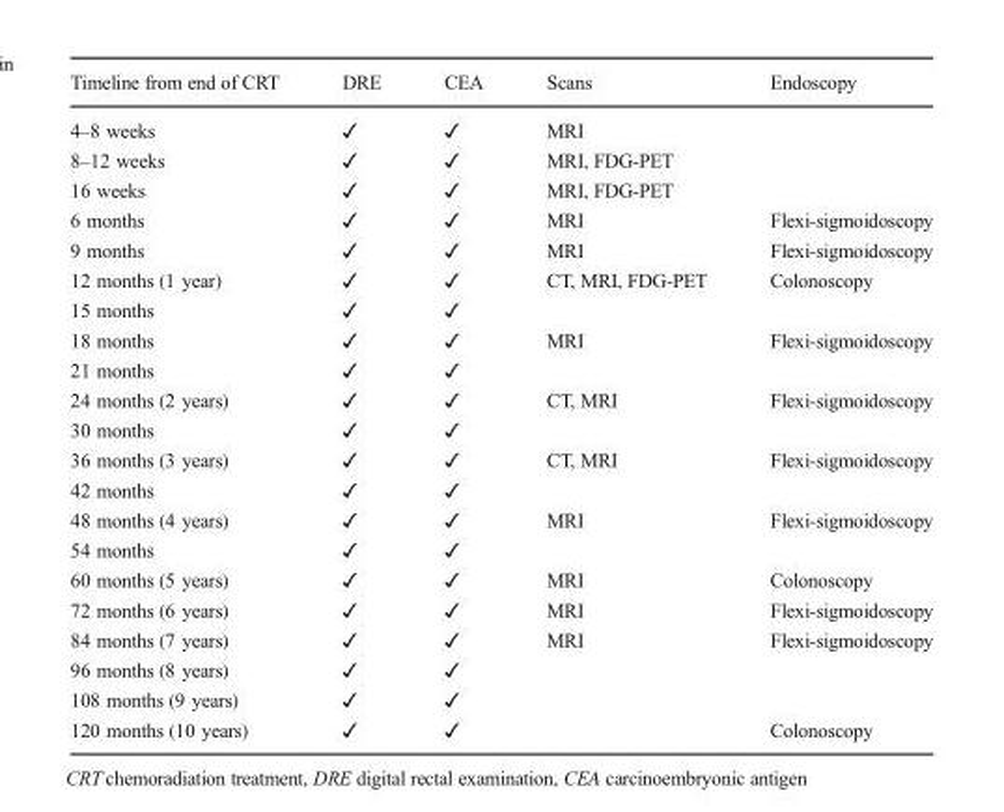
<table><thead><tr><td>Timeline from end of CRT</td><td>DRE</td><td>CEA</td><td>Scans</td><td>Endoscopy</td></tr></thead><tbody><tr><td>4–8 weeks</td><td>✓</td><td>✓</td><td>MRI</td><td></td></tr><tr><td>8–12 weeks</td><td>✓</td><td>✓</td><td>MRI, FDG-PET</td><td></td></tr><tr><td>16 weeks</td><td>✓</td><td>✓</td><td>MRI, FDG-PET</td><td></td></tr><tr><td>6 months</td><td>✓</td><td>✓</td><td>MRI</td><td>Flexi-sigmoidoscopy</td></tr><tr><td>9 months</td><td>✓</td><td>✓</td><td>MRI</td><td>Flexi-sigmoidoscopy</td></tr><tr><td>12 months (1 year)</td><td>✓</td><td>✓</td><td>CT, MRI, FDG-PET</td><td>Colonoscopy</td></tr><tr><td>15 months</td><td>✓</td><td>✓</td><td></td><td></td></tr><tr><td>18 months</td><td>✓</td><td>✓</td><td>MRI</td><td>Flexi-sigmoidoscopy</td></tr><tr><td>21 months</td><td>✓</td><td>✓</td><td></td><td></td></tr><tr><td>24 months (2 years)</td><td>✓</td><td>✓</td><td>CT, MRI</td><td>Flexi-sigmoidoscopy</td></tr><tr><td>30 months</td><td>✓</td><td>✓</td><td></td><td></td></tr><tr><td>36 months (3 years)</td><td>✓</td><td>✓</td><td>CT, MRI</td><td>Flexi-sigmoidoscopy</td></tr><tr><td>42 months</td><td>✓</td><td>✓</td><td></td><td></td></tr><tr><td>48 months (4 years)</td><td>✓</td><td>✓</td><td>MRI</td><td>Flexi-sigmoidoscopy</td></tr><tr><td>54 months</td><td>✓</td><td>✓</td><td></td><td></td></tr><tr><td>60 months (5 years)</td><td>✓</td><td>✓</td><td>MRI</td><td>Colonoscopy</td></tr><tr><td>72 months (6 years)</td><td>✓</td><td>✓</td><td>MRI</td><td>Flexi-sigmoidoscopy</td></tr><tr><td>84 months (7 years)</td><td>✓</td><td>✓</td><td>MRI</td><td>Flexi-sigmoidoscopy</td></tr><tr><td>96 months (8 years)</td><td>✓</td><td>✓</td><td></td><td></td></tr><tr><td>108 months (9 years)</td><td>✓</td><td>✓</td><td></td><td></td></tr><tr><td>120 months (10 years)</td><td>✓</td><td>✓</td><td></td><td>Colonoscopy</td></tr></tbody></table>